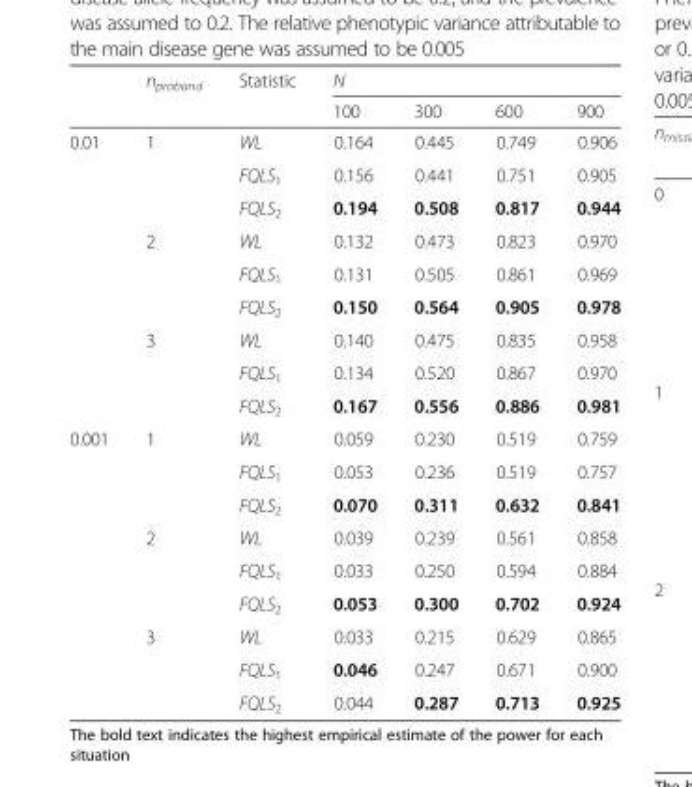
<table><thead><tr><td rowspan="2"></td><td rowspan="2">n<sub>proband</sub></td><td rowspan="2">Statistic</td><td colspan="4">N</td></tr><tr><td>100</td><td>300</td><td>600</td><td>900</td></tr></thead><tbody><tr><td rowspan="9">0.01</td><td rowspan="3">1</td><td>WL</td><td>0.164</td><td>0.445</td><td>0.749</td><td>0.906</td></tr><tr><td>FQLS<sub>1</sub></td><td>0.156</td><td>0.441</td><td>0.751</td><td>0.905</td></tr><tr><td>FQLS<sub>2</sub></td><td>0.194</td><td>0.508</td><td>0.817</td><td>0.944</td></tr><tr><td rowspan="3">2</td><td>WL</td><td>0.132</td><td>0.473</td><td>0.823</td><td>0.970</td></tr><tr><td>FQLS<sub>1</sub></td><td>0.131</td><td>0.505</td><td>0.861</td><td>0.969</td></tr><tr><td>FQLS<sub>2</sub></td><td>0.150</td><td>0.564</td><td>0.905</td><td>0.978</td></tr><tr><td rowspan="3">3</td><td>WL</td><td>0.140</td><td>0.475</td><td>0.835</td><td>0.958</td></tr><tr><td>FQLS<sub>1</sub></td><td>0.134</td><td>0.520</td><td>0.867</td><td>0.970</td></tr><tr><td>FQLS<sub>2</sub></td><td>0.167</td><td>0.556</td><td>0.886</td><td>0.981</td></tr><tr><td rowspan="9">0.001</td><td rowspan="3">1</td><td>WL</td><td>0.059</td><td>0.230</td><td>0.519</td><td>0.759</td></tr><tr><td>FQLS<sub>1</sub></td><td>0.053</td><td>0.236</td><td>0.519</td><td>0.757</td></tr><tr><td>FQLS<sub>2</sub></td><td>0.070</td><td>0.311</td><td>0.632</td><td>0.841</td></tr><tr><td rowspan="3">2</td><td>WL</td><td>0.039</td><td>0.239</td><td>0.561</td><td>0.858</td></tr><tr><td>FQLS<sub>1</sub></td><td>0.033</td><td>0.250</td><td>0.594</td><td>0.884</td></tr><tr><td>FQLS<sub>2</sub></td><td>0.053</td><td>0.300</td><td>0.702</td><td>0.924</td></tr><tr><td rowspan="3">3</td><td>WL</td><td>0.033</td><td>0.215</td><td>0.629</td><td>0.865</td></tr><tr><td>FQLS<sub>1</sub></td><td>0.046</td><td>0.247</td><td>0.671</td><td>0.900</td></tr><tr><td>FQLS<sub>2</sub></td><td>0.044</td><td>0.287</td><td>0.713</td><td>0.925</td></tr></tbody></table>